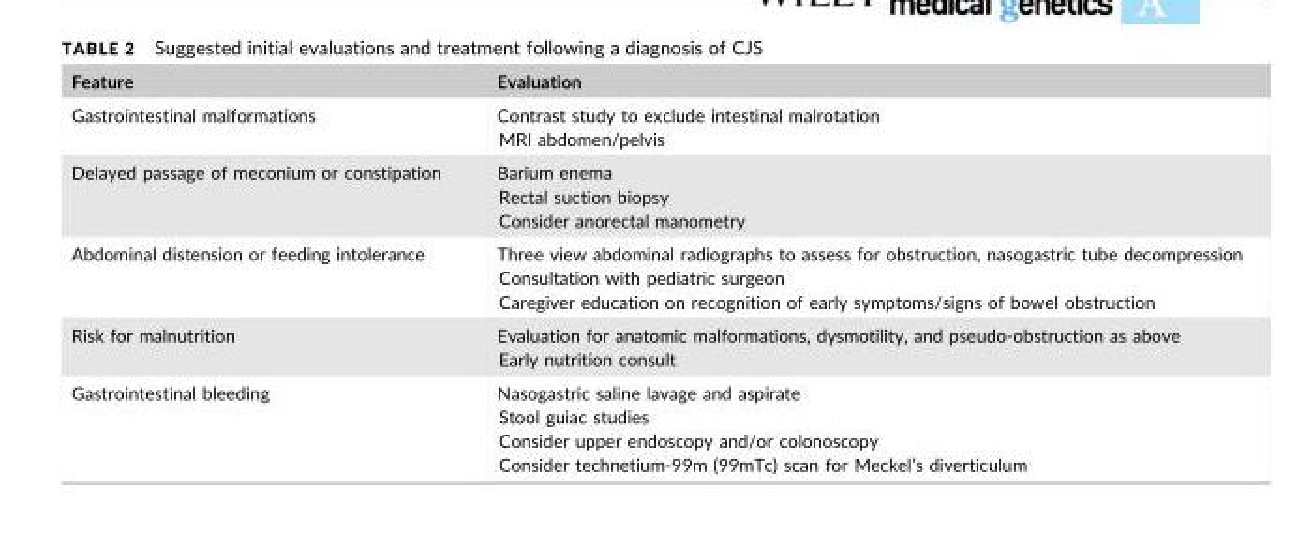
<table><thead><tr><td>Feature</td><td>Evaluation</td></tr></thead><tbody><tr><td>Gastrointestinal malformations</td><td>Contrast study to exclude intestinal malrotation MRI abdomen/pelvis</td></tr><tr><td>Delayed passage of meconium or constipation</td><td>Barium enema Rectal suction biopsy Consider anorectal manometry</td></tr><tr><td>Abdominal distension or feeding intolerance</td><td>Three view abdominal radiographs to assess for obstruction, nasogastric tube decompression Consultation with pediatric surgeon Caregiver education on recognition of early symptoms/signs of bowel obstruction</td></tr><tr><td>Risk for malnutrition</td><td>Evaluation for anatomic malformations, dysmotility, and pseudo-obstruction as above Early nutrition consult</td></tr><tr><td>Gastrointestinal bleeding</td><td>Nasogastric saline lavage and aspirate Stool guiac studies Consider upper endoscopy and/or colonoscopy Consider technetium-99m (99mTc) scan for Meckel’s diverticulum</td></tr></tbody></table>